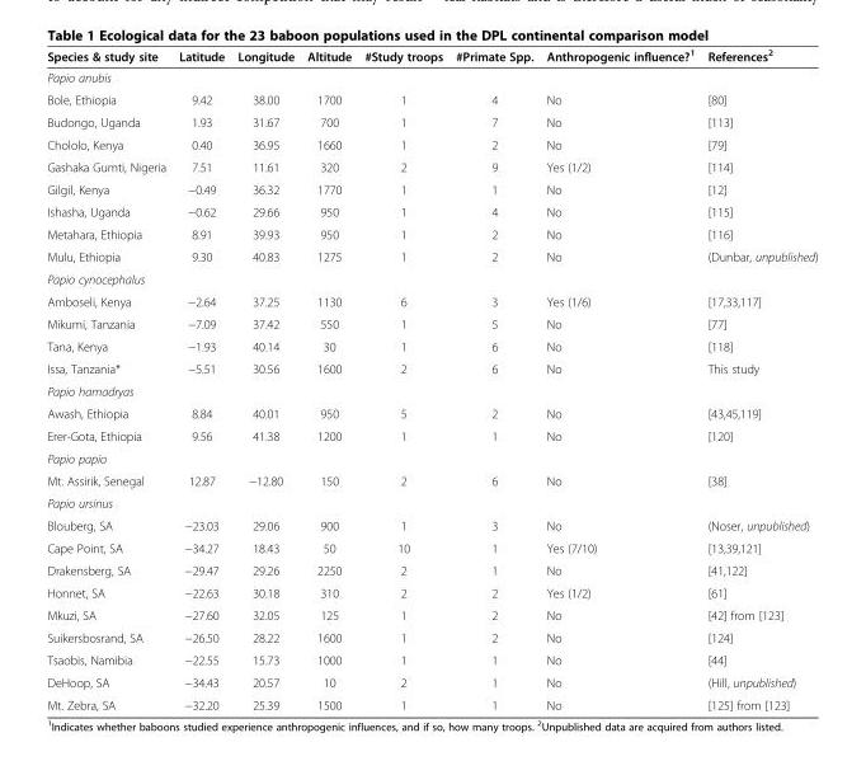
<table><thead><tr><td>Species &amp; study site</td><td>Latitude</td><td>Longitude</td><td>Altitude</td><td>#Study troops</td><td>#Primate Spp.</td><td>Anthropogenic influence?<sup>1</sup></td><td>References<sup>2</sup></td></tr></thead><tbody><tr><td colspan="8">Papio anubis</td></tr><tr><td>Bole, Ethiopia</td><td>9.42</td><td>38.00</td><td>1700</td><td>1</td><td>4</td><td>No</td><td>[80]</td></tr><tr><td>Budongo, Uganda</td><td>1.93</td><td>31.67</td><td>700</td><td>1</td><td>7</td><td>No</td><td>[113]</td></tr><tr><td>Chololo, Kenya</td><td>0.40</td><td>36.95</td><td>1660</td><td>1</td><td>2</td><td>No</td><td>[79]</td></tr><tr><td>Gashaka Gumti, Nigeria</td><td>7.51</td><td>11.61</td><td>320</td><td>2</td><td>9</td><td>Yes (1/2)</td><td>[114]</td></tr><tr><td>Gilgil, Kenya</td><td>−0.49</td><td>36.32</td><td>1770</td><td>1</td><td>1</td><td>No</td><td>[12]</td></tr><tr><td>Ishasha, Uganda</td><td>−0.62</td><td>29.66</td><td>950</td><td>1</td><td>4</td><td>No</td><td>[115]</td></tr><tr><td>Metahara, Ethiopia</td><td>8.91</td><td>39.93</td><td>950</td><td>1</td><td>2</td><td>No</td><td>[116]</td></tr><tr><td>Mulu, Ethiopia</td><td>9.30</td><td>40.83</td><td>1275</td><td>1</td><td>2</td><td>No</td><td>(Dunbar, unpublished)</td></tr><tr><td colspan="8">Papio cynocephalus</td></tr><tr><td>Amboseli, Kenya</td><td>−2.64</td><td>37.25</td><td>1130</td><td>6</td><td>3</td><td>Yes (1/6)</td><td>[17,33,117]</td></tr><tr><td>Mikumi, Tanzania</td><td>−7.09</td><td>37.42</td><td>550</td><td>1</td><td>5</td><td>No</td><td>[77]</td></tr><tr><td>Tana, Kenya</td><td>−1.93</td><td>40.14</td><td>30</td><td>1</td><td>6</td><td>No</td><td>[118]</td></tr><tr><td>Issa, Tanzania*</td><td>−5.51</td><td>30.56</td><td>1600</td><td>2</td><td>6</td><td>No</td><td>This study</td></tr><tr><td colspan="8">Papio hamadryas</td></tr><tr><td>Awash, Ethiopia</td><td>8.84</td><td>40.01</td><td>950</td><td>5</td><td>2</td><td>No</td><td>[43,45,119]</td></tr><tr><td>Erer-Gota, Ethiopia</td><td>9.56</td><td>41.38</td><td>1200</td><td>1</td><td>1</td><td>No</td><td>[120]</td></tr><tr><td colspan="8">Papio papio</td></tr><tr><td>Mt. Assirik, Senegal</td><td>12.87</td><td>−12.80</td><td>150</td><td>2</td><td>6</td><td>No</td><td>[38]</td></tr><tr><td colspan="8">Papio ursinus</td></tr><tr><td>Blouberg, SA</td><td>−23.03</td><td>29.06</td><td>900</td><td>1</td><td>3</td><td>No</td><td>(Noser, unpublished)</td></tr><tr><td>Cape Point, SA</td><td>−34.27</td><td>18.43</td><td>50</td><td>10</td><td>1</td><td>Yes (7/10)</td><td>[13,39,121]</td></tr><tr><td>Drakensberg, SA</td><td>−29.47</td><td>29.26</td><td>2250</td><td>2</td><td>1</td><td>No</td><td>[41,122]</td></tr><tr><td>Honnet, SA</td><td>−22.63</td><td>30.18</td><td>310</td><td>2</td><td>2</td><td>Yes (1/2)</td><td>[61]</td></tr><tr><td>Mkuzi, SA</td><td>−27.60</td><td>32.05</td><td>125</td><td>1</td><td>2</td><td>No</td><td>[42] from [123]</td></tr><tr><td>Suikersbosrand, SA</td><td>−26.50</td><td>28.22</td><td>1600</td><td>1</td><td>2</td><td>No</td><td>[124]</td></tr><tr><td>Tsaobis, Namibia</td><td>−22.55</td><td>15.73</td><td>1000</td><td>1</td><td>1</td><td>No</td><td>[44]</td></tr><tr><td>DeHoop, SA</td><td>−34.43</td><td>20.57</td><td>10</td><td>2</td><td>1</td><td>No</td><td>(Hill, unpublished)</td></tr><tr><td>Mt. Zebra, SA</td><td>−32.20</td><td>25.39</td><td>1500</td><td>1</td><td>1</td><td>No</td><td>[125] from [123]</td></tr></tbody></table>